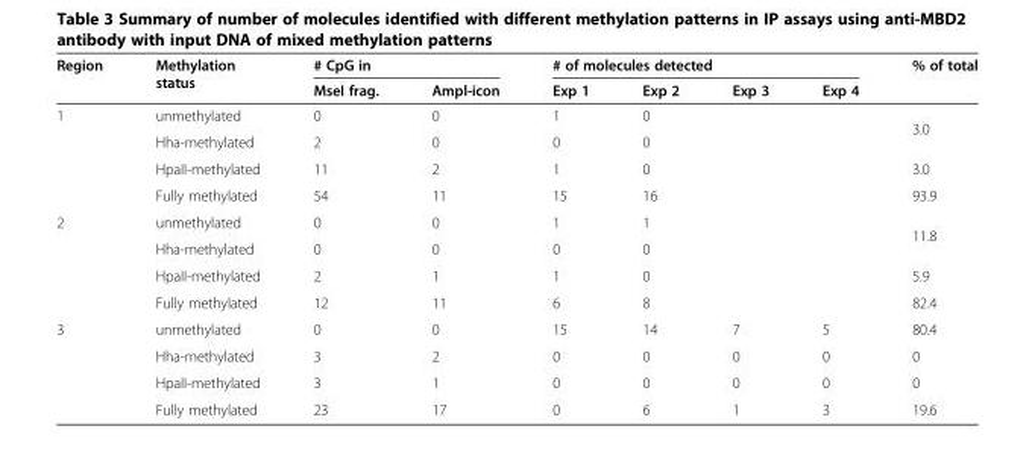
<table><thead><tr><td rowspan="2">Region</td><td rowspan="2">Methylation status</td><td colspan="2"># CpG in</td><td colspan="4"># of molecules detected</td><td rowspan="2">% of total</td></tr><tr><td>MseI frag.</td><td>Ampl-icon</td><td>Exp 1</td><td>Exp 2</td><td>Exp 3</td><td>Exp 4</td></tr></thead><tbody><tr><td rowspan="4">1</td><td>unmethylated</td><td>0</td><td>0</td><td>1</td><td>0</td><td rowspan="2"></td><td></td><td rowspan="2">3.0</td></tr><tr><td>Hha-methylated</td><td>2</td><td>0</td><td>0</td><td>0</td><td></td></tr><tr><td>HpaII-methylated</td><td>11</td><td>2</td><td>1</td><td>0</td><td></td><td></td><td>3.0</td></tr><tr><td>Fully methylated</td><td>54</td><td>11</td><td>15</td><td>16</td><td></td><td></td><td>93.9</td></tr><tr><td rowspan="4">2</td><td>unmethylated</td><td>0</td><td>0</td><td>1</td><td>1</td><td rowspan="2"></td><td></td><td rowspan="2">11.8</td></tr><tr><td>Hha-methylated</td><td>0</td><td>0</td><td>0</td><td>0</td><td></td></tr><tr><td>HpaII-methylated</td><td>2</td><td>1</td><td>1</td><td>0</td><td></td><td></td><td>5.9</td></tr><tr><td>Fully methylated</td><td>12</td><td>11</td><td>6</td><td>8</td><td></td><td></td><td>82.4</td></tr><tr><td rowspan="4">3</td><td>unmethylated</td><td>0</td><td>0</td><td>15</td><td>14</td><td>7</td><td>5</td><td>80.4</td></tr><tr><td>Hha-methylated</td><td>3</td><td>2</td><td>0</td><td>0</td><td>0</td><td>0</td><td>0</td></tr><tr><td>HpaII-methylated</td><td>3</td><td>1</td><td>0</td><td>0</td><td>0</td><td>0</td><td>0</td></tr><tr><td>Fully methylated</td><td>23</td><td>17</td><td>0</td><td>6</td><td>1</td><td>3</td><td>19.6</td></tr></tbody></table>